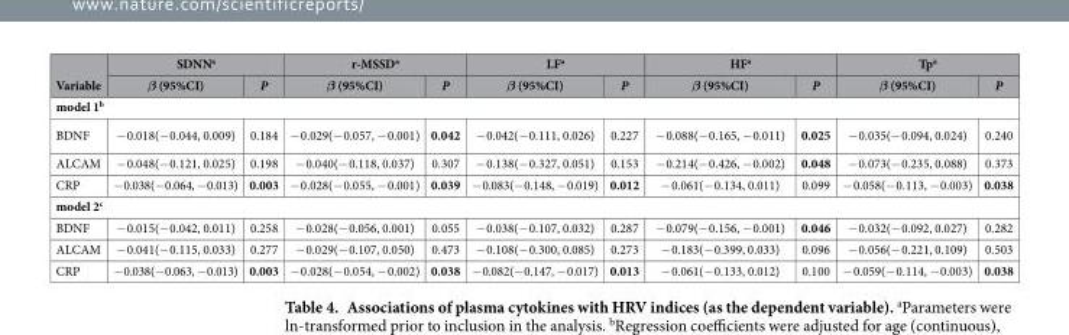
<table><thead><tr><td rowspan="2">Variable</td><td colspan="2">SDNN<sup>a</sup></td><td colspan="2">r-MSSD<sup>a</sup></td><td colspan="2">LF<sup>a</sup></td><td colspan="2">HF<sup>a</sup></td><td colspan="2">Tp<sup>a</sup></td></tr><tr><td>β (95%CI)</td><td>P</td><td>β (95%CI)</td><td>P</td><td>β (95%CI)</td><td>P</td><td>β (95%CI)</td><td>P</td><td>β (95%CI)</td><td>P</td></tr></thead><tbody><tr><td colspan="11">model 1<sup>b</sup></td></tr><tr><td>BDNF</td><td>− 0.018(− 0.044, 0.009)</td><td>0.184</td><td>− 0.029(− 0.057, − 0.001)</td><td>0.042</td><td>− 0.042(− 0.111, 0.026)</td><td>0.227</td><td>− 0.088(− 0.165, − 0.011)</td><td>0.025</td><td>− 0.035(− 0.094, 0.024)</td><td>0.240</td></tr><tr><td>ALCAM</td><td>− 0.048(− 0.121, 0.025)</td><td>0.198</td><td>− 0.040(− 0.118, 0.037)</td><td>0.307</td><td>− 0.138(− 0.327, 0.051)</td><td>0.153</td><td>− 0.214(− 0.426, − 0.002)</td><td>0.048</td><td>− 0.073(− 0.235, 0.088)</td><td>0.373</td></tr><tr><td>CRP</td><td>− 0.038(− 0.064, − 0.013)</td><td>0.003</td><td>− 0.028(− 0.055, − 0.001)</td><td>0.039</td><td>− 0.083(− 0.148, − 0.019)</td><td>0.012</td><td>− 0.061(− 0.134, 0.011)</td><td>0.099</td><td>− 0.058(− 0.113, − 0.003)</td><td>0.038</td></tr><tr><td colspan="11">model 2<sup>c</sup></td></tr><tr><td>BDNF</td><td>− 0.015(− 0.042, 0.011)</td><td>0.258</td><td>− 0.028(− 0.056, 0.001)</td><td>0.055</td><td>− 0.038(− 0.107, 0.032)</td><td>0.287</td><td>− 0.079(− 0.156, − 0.001)</td><td>0.046</td><td>− 0.032(− 0.092, 0.027)</td><td>0.282</td></tr><tr><td>ALCAM</td><td>− 0.041(− 0.115, 0.033)</td><td>0.277</td><td>− 0.029(− 0.107, 0.050)</td><td>0.473</td><td>− 0.108(− 0.300, 0.085)</td><td>0.273</td><td>− 0.183(− 0.399, 0.033)</td><td>0.096</td><td>− 0.056(− 0.221, 0.109)</td><td>0.503</td></tr><tr><td>CRP</td><td>− 0.038(− 0.063, − 0.013)</td><td>0.003</td><td>− 0.028(− 0.054, − 0.002)</td><td>0.038</td><td>− 0.082(− 0.147, − 0.017)</td><td>0.013</td><td>− 0.061(− 0.133, 0.012)</td><td>0.100</td><td>− 0.059(− 0.114, − 0.003)</td><td>0.038</td></tr></tbody></table>